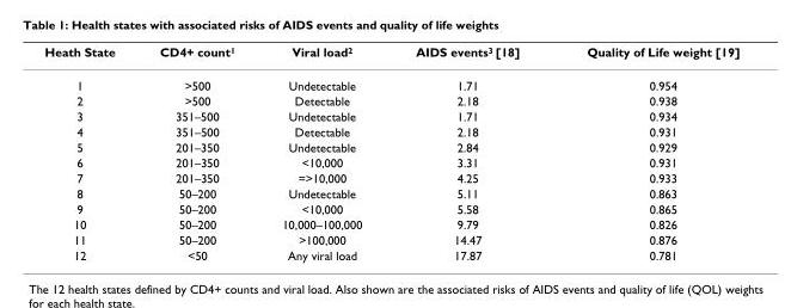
<table><thead><tr><td>Heath State</td><td>CD4+ count<sup>1</sup></td><td>Viral load<sup>2</sup></td><td>AIDS events<sup>3</sup> [18]</td><td>Quality of Life weight [19]</td></tr></thead><tbody><tr><td>1</td><td>&gt;500</td><td>Undetectable</td><td>1.71</td><td>0.954</td></tr><tr><td>2</td><td>&gt;500</td><td>Detectable</td><td>2.18</td><td>0.938</td></tr><tr><td>3</td><td>351–500</td><td>Undetectable</td><td>1.71</td><td>0.934</td></tr><tr><td>4</td><td>351–500</td><td>Detectable</td><td>2.18</td><td>0.931</td></tr><tr><td>5</td><td>201–350</td><td>Undetectable</td><td>2.84</td><td>0.929</td></tr><tr><td>6</td><td>201–350</td><td>&lt;10,000</td><td>3.31</td><td>0.931</td></tr><tr><td>7</td><td>201–350</td><td>=&gt;10,000</td><td>4.25</td><td>0.933</td></tr><tr><td>8</td><td>50–200</td><td>Undetectable</td><td>5.11</td><td>0.863</td></tr><tr><td>9</td><td>50–200</td><td>&lt;10,000</td><td>5.58</td><td>0.865</td></tr><tr><td>10</td><td>50–200</td><td>10,000–100,000</td><td>9.79</td><td>0.826</td></tr><tr><td>11</td><td>50–200</td><td>&gt;100,000</td><td>14.47</td><td>0.876</td></tr><tr><td>12</td><td>&lt;50</td><td>Any viral load</td><td>17.87</td><td>0.781</td></tr></tbody></table>